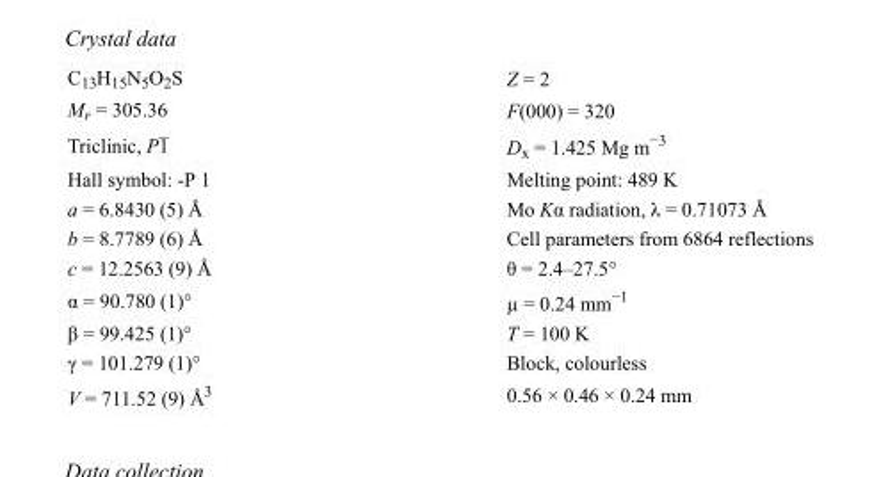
<table><tbody><tr><td>C<sub>13</sub>H<sub>15</sub>N<sub>5</sub>O<sub>2</sub>S</td><td>Z = 2</td></tr><tr><td>M<sub>r</sub> = 305.36</td><td>F(000) = 320</td></tr><tr><td>Triclinic, P1</td><td>D<sub>x</sub> = 1.425 Mg m<sup>−3</sup></td></tr><tr><td>Hall symbol: -P 1</td><td>Melting point: 489 K</td></tr><tr><td>a = 6.8430 (5) Å</td><td>Mo Kα radiation, λ = 0.71073 Å</td></tr><tr><td>b = 8.7789 (6) Å</td><td>Cell parameters from 6864 reflections</td></tr><tr><td>c = 12.2563 (9) Å</td><td>θ = 2.4–27.5°</td></tr><tr><td>α = 90.780 (1)°</td><td>µ = 0.24 mm<sup>−1</sup></td></tr><tr><td>β = 99.425 (1)°</td><td>T = 100 K</td></tr><tr><td>γ = 101.279 (1)°</td><td>Block, colourless</td></tr><tr><td>V = 711.52 (9) Å<sup>3</sup></td><td>0.56 × 0.46 × 0.24 mm</td></tr></tbody></table>